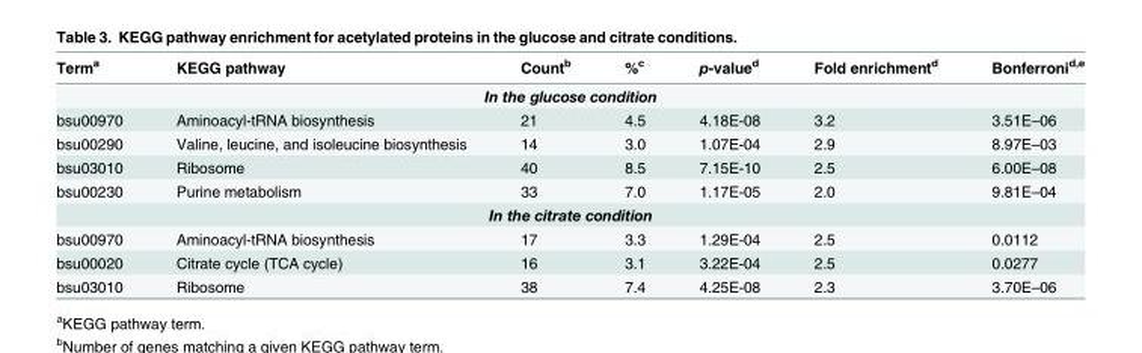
<table><thead><tr><td>Term<sup>a</sup></td><td>KEGG pathway</td><td>Count<sup>b</sup></td><td>%<sup>c</sup></td><td>p-value<sup>d</sup></td><td>Fold enrichment<sup>d</sup></td><td>Bonferroni<sup>d,e</sup></td></tr></thead><tbody><tr><td colspan="7">In the glucose condition</td></tr><tr><td>bsu00970</td><td>Aminoacyl-tRNA biosynthesis</td><td>21</td><td>4.5</td><td>4.18E-08</td><td>3.2</td><td>3.51E–06</td></tr><tr><td>bsu00290</td><td>Valine, leucine, and isoleucine biosynthesis</td><td>14</td><td>3.0</td><td>1.07E-04</td><td>2.9</td><td>8.97E–03</td></tr><tr><td>bsu03010</td><td>Ribosome</td><td>40</td><td>8.5</td><td>7.15E-10</td><td>2.5</td><td>6.00E–08</td></tr><tr><td>bsu00230</td><td>Purine metabolism</td><td>33</td><td>7.0</td><td>1.17E-05</td><td>2.0</td><td>9.81E–04</td></tr><tr><td colspan="7">In the citrate condition</td></tr><tr><td>bsu00970</td><td>Aminoacyl-tRNA biosynthesis</td><td>17</td><td>3.3</td><td>1.29E-04</td><td>2.5</td><td>0.0112</td></tr><tr><td>bsu00020</td><td>Citrate cycle (TCA cycle)</td><td>16</td><td>3.1</td><td>3.22E-04</td><td>2.5</td><td>0.0277</td></tr><tr><td>bsu03010</td><td>Ribosome</td><td>38</td><td>7.4</td><td>4.25E-08</td><td>2.3</td><td>3.70E–06</td></tr></tbody></table>